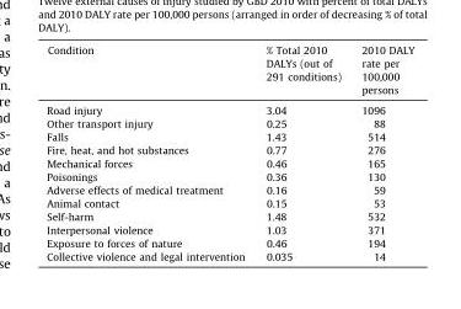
<table><thead><tr><td>Condition</td><td>% Total 2010 DALYs (out of 291 conditions)</td><td>2010 DALY rate per 100,000 persons</td></tr></thead><tbody><tr><td>Road injury</td><td>3.04</td><td>1096</td></tr><tr><td>Other transport injury</td><td>0.25</td><td>88</td></tr><tr><td>Falls</td><td>1.43</td><td>514</td></tr><tr><td>Fire, heat, and hot substances</td><td>0.77</td><td>276</td></tr><tr><td>Mechanical forces</td><td>0.46</td><td>165</td></tr><tr><td>Poisonings</td><td>0.36</td><td>130</td></tr><tr><td>Adverse effects of medical treatment</td><td>0.16</td><td>59</td></tr><tr><td>Animal contact</td><td>0.15</td><td>53</td></tr><tr><td>Self-harm</td><td>1.48</td><td>532</td></tr><tr><td>Interpersonal violence</td><td>1.03</td><td>371</td></tr><tr><td>Exposure to forces of nature</td><td>0.46</td><td>194</td></tr><tr><td>Collective violence and legal intervention</td><td>0.035</td><td>14</td></tr></tbody></table>